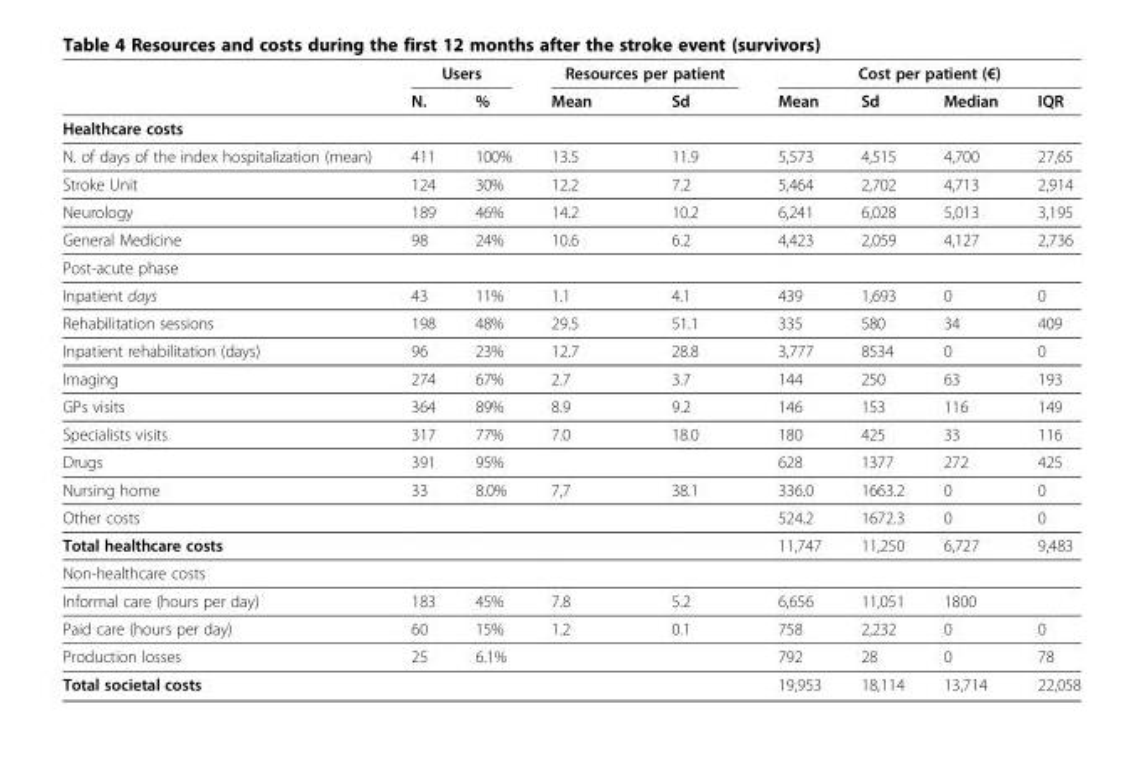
<table><thead><tr><td rowspan="2"></td><td colspan="2">Users</td><td colspan="2">Resources per patient</td><td colspan="4">Cost per patient (€)</td></tr><tr><td>N.</td><td>%</td><td>Mean</td><td>Sd</td><td>Mean</td><td>Sd</td><td>Median</td><td>IQR</td></tr></thead><tbody><tr><td colspan="9">Healthcare costs</td></tr><tr><td>N. of days of the index hospitalization (mean)</td><td>411</td><td>100%</td><td>13.5</td><td>11.9</td><td>5,573</td><td>4,515</td><td>4,700</td><td>27,65</td></tr><tr><td>Stroke Unit</td><td>124</td><td>30%</td><td>12.2</td><td>7.2</td><td>5,464</td><td>2,702</td><td>4,713</td><td>2,914</td></tr><tr><td>Neurology</td><td>189</td><td>46%</td><td>14.2</td><td>10.2</td><td>6,241</td><td>6,028</td><td>5,013</td><td>3,195</td></tr><tr><td>General Medicine</td><td>98</td><td>24%</td><td>10.6</td><td>6.2</td><td>4,423</td><td>2,059</td><td>4,127</td><td>2,736</td></tr><tr><td colspan="9">Post-acute phase</td></tr><tr><td>Inpatient days</td><td>43</td><td>11%</td><td>1.1</td><td>4.1</td><td>439</td><td>1,693</td><td>0</td><td>0</td></tr><tr><td>Rehabilitation sessions</td><td>198</td><td>48%</td><td>29.5</td><td>51.1</td><td>335</td><td>580</td><td>34</td><td>409</td></tr><tr><td>Inpatient rehabilitation (days)</td><td>96</td><td>23%</td><td>12.7</td><td>28.8</td><td>3,777</td><td>8534</td><td>0</td><td>0</td></tr><tr><td>Imaging</td><td>274</td><td>67%</td><td>2.7</td><td>3.7</td><td>144</td><td>250</td><td>63</td><td>193</td></tr><tr><td>GPs visits</td><td>364</td><td>89%</td><td>8.9</td><td>9.2</td><td>146</td><td>153</td><td>116</td><td>149</td></tr><tr><td>Specialists visits</td><td>317</td><td>77%</td><td>7.0</td><td>18.0</td><td>180</td><td>425</td><td>33</td><td>116</td></tr><tr><td>Drugs</td><td>391</td><td>95%</td><td></td><td></td><td>628</td><td>1377</td><td>272</td><td>425</td></tr><tr><td>Nursing home</td><td>33</td><td>8.0%</td><td>7,7</td><td>38.1</td><td>336.0</td><td>1663.2</td><td>0</td><td>0</td></tr><tr><td>Other costs</td><td></td><td></td><td></td><td></td><td>524.2</td><td>1672.3</td><td>0</td><td>0</td></tr><tr><td>Total healthcare costs</td><td></td><td></td><td></td><td></td><td>11,747</td><td>11,250</td><td>6,727</td><td>9,483</td></tr><tr><td colspan="9">Non-healthcare costs</td></tr><tr><td>Informal care (hours per day)</td><td>183</td><td>45%</td><td>7.8</td><td>5.2</td><td>6,656</td><td>11,051</td><td>1800</td><td></td></tr><tr><td>Paid care (hours per day)</td><td>60</td><td>15%</td><td>1.2</td><td>0.1</td><td>758</td><td>2,232</td><td>0</td><td>0</td></tr><tr><td>Production losses</td><td>25</td><td>6.1%</td><td></td><td></td><td>792</td><td>28</td><td>0</td><td>78</td></tr><tr><td>Total societal costs</td><td></td><td></td><td></td><td></td><td>19,953</td><td>18,114</td><td>13,714</td><td>22,058</td></tr></tbody></table>